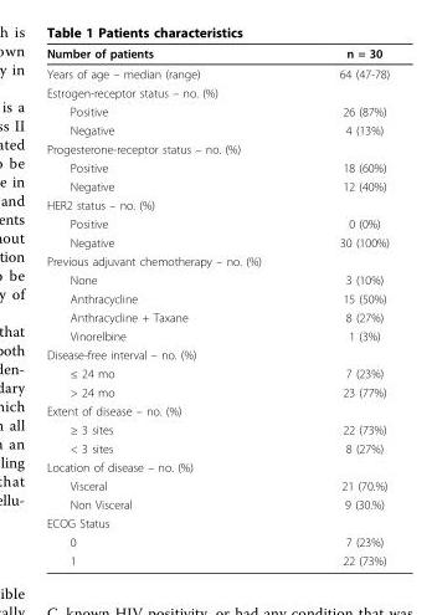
<table><thead><tr><td>Number of patients</td><td>n = 30</td></tr></thead><tbody><tr><td>Years of age – median (range)</td><td>64 (47-78)</td></tr><tr><td colspan="2">Estrogen-receptor status – no. (%)</td></tr><tr><td>Positive</td><td>26 (87%)</td></tr><tr><td>Negative</td><td>4 (13%)</td></tr><tr><td colspan="2">Progesterone-receptor status – no. (%)</td></tr><tr><td>Positive</td><td>18 (60%)</td></tr><tr><td>Negative</td><td>12 (40%)</td></tr><tr><td colspan="2">HER2 status – no. (%)</td></tr><tr><td>Positive</td><td>0 (0%)</td></tr><tr><td>Negative</td><td>30 (100%)</td></tr><tr><td colspan="2">Previous adjuvant chemotherapy – no. (%)</td></tr><tr><td>None</td><td>3 (10%)</td></tr><tr><td>Anthracycline</td><td>15 (50%)</td></tr><tr><td>Anthracycline + Taxane</td><td>8 (27%)</td></tr><tr><td>Vinorelbine</td><td>1 (3%)</td></tr><tr><td colspan="2">Disease-free interval – no. (%)</td></tr><tr><td>≤ 24 mo</td><td>7 (23%)</td></tr><tr><td>&gt; 24 mo</td><td>23 (77%)</td></tr><tr><td colspan="2">Extent of disease – no. (%)</td></tr><tr><td>≥ 3 sites</td><td>22 (73%)</td></tr><tr><td>&lt; 3 sites</td><td>8 (27%)</td></tr><tr><td colspan="2">Location of disease – no. (%)</td></tr><tr><td>Visceral</td><td>21 (70.%)</td></tr><tr><td>Non Visceral</td><td>9 (30.%)</td></tr><tr><td colspan="2">ECOG Status</td></tr><tr><td>0</td><td>7 (23%)</td></tr><tr><td>1</td><td>22 (73%)</td></tr></tbody></table>